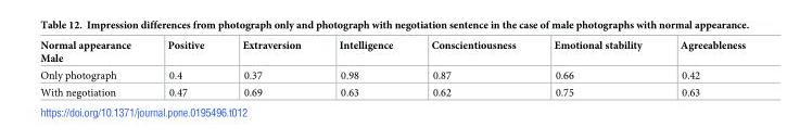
<table><thead><tr><td>Normal appearance Male</td><td>Positive</td><td>Extraversion</td><td>Intelligence</td><td>Conscientiousness</td><td>Emotional stability</td><td>Agreeableness</td></tr></thead><tbody><tr><td>Only photograph</td><td>0.4</td><td>0.37</td><td>0.98</td><td>0.87</td><td>0.66</td><td>0.42</td></tr><tr><td>With negotiation</td><td>0.47</td><td>0.69</td><td>0.63</td><td>0.62</td><td>0.75</td><td>0.63</td></tr></tbody></table>